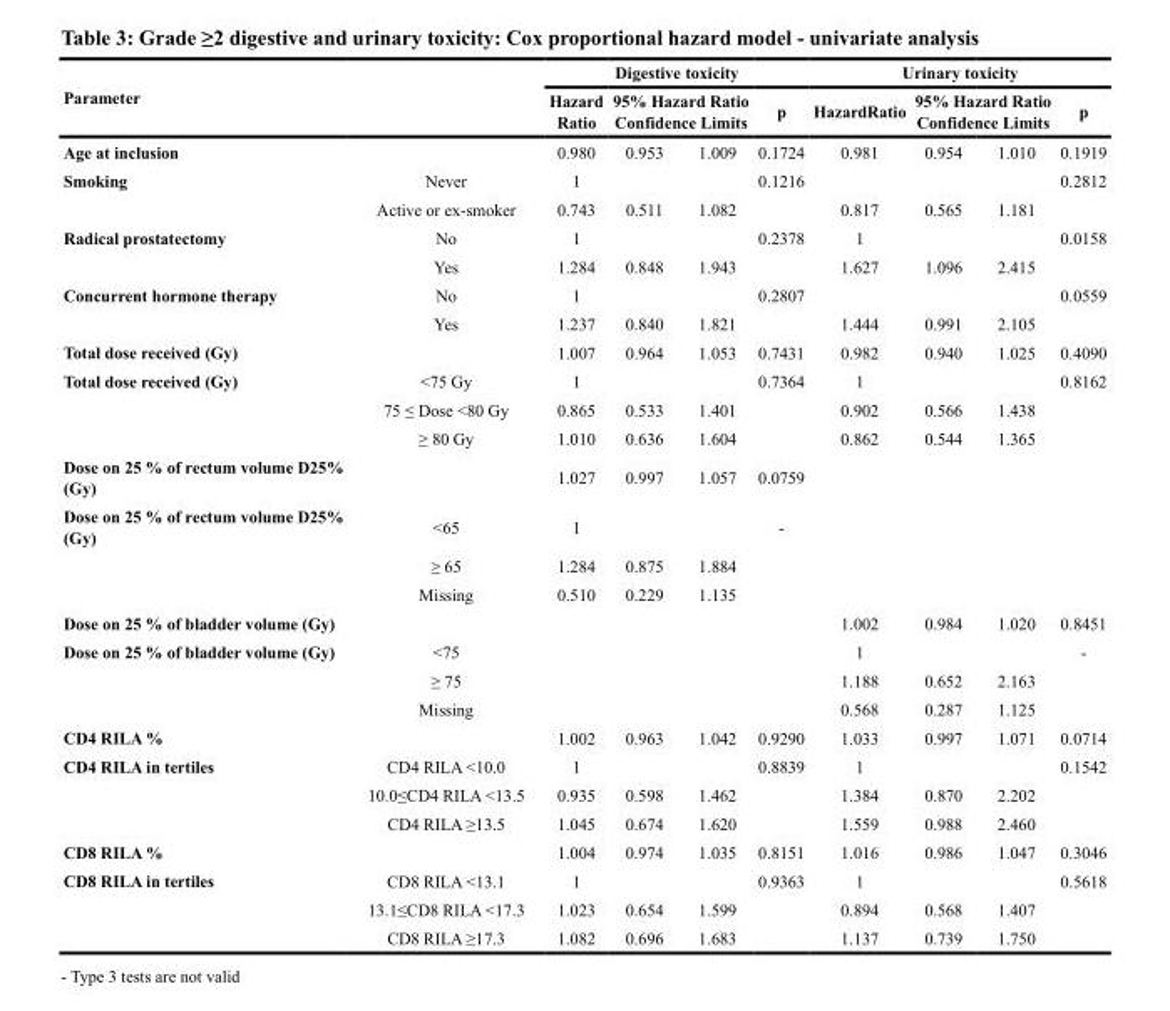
<table><thead><tr><td rowspan="3">Parameter Age at inclusion</td><td rowspan="3"></td><td colspan="4">Digestive toxicity</td><td colspan="4">Urinary toxicity</td></tr><tr><td rowspan="2">Hazard Ratio 0.980</td><td colspan="2">95% Hazard Ratio Confidence Limits</td><td rowspan="2">p 0.1724</td><td rowspan="2">HazardRatio 0.981</td><td colspan="2">95% Hazard Ratio Confidence Limits</td><td rowspan="2">p 0.1919</td></tr><tr><td>0.953</td><td>1.009</td><td>0.954</td><td>1.010</td></tr></thead><tbody><tr><td rowspan="2">Smoking</td><td>Never</td><td>1</td><td></td><td></td><td>0.1216</td><td></td><td></td><td></td><td>0.2812</td></tr><tr><td>Active or ex-smoker</td><td>0.743</td><td>0.511</td><td>1.082</td><td></td><td>0.817</td><td>0.565</td><td>1.181</td><td></td></tr><tr><td rowspan="2">Radical prostatectomy</td><td>No</td><td>1</td><td></td><td></td><td>0.2378</td><td>1</td><td></td><td></td><td>0.0158</td></tr><tr><td>Yes</td><td>1.284</td><td>0.848</td><td>1.943</td><td></td><td>1.627</td><td>1.096</td><td>2.415</td><td></td></tr><tr><td rowspan="2">Concurrent hormone therapy</td><td>No</td><td>1</td><td></td><td></td><td>0.2807</td><td></td><td></td><td></td><td>0.0559</td></tr><tr><td>Yes</td><td>1.237</td><td>0.840</td><td>1.821</td><td></td><td>1.444</td><td>0.991</td><td>2.105</td><td></td></tr><tr><td>Total dose received (Gy)</td><td></td><td>1.007</td><td>0.964</td><td>1.053</td><td>0.7431</td><td>0.982</td><td>0.940</td><td>1.025</td><td>0.4090</td></tr><tr><td rowspan="3">Total dose received (Gy)</td><td>&lt;75 Gy</td><td>1</td><td></td><td></td><td>0.7364</td><td>1</td><td></td><td></td><td>0.8162</td></tr><tr><td>75 ≤ Dose &lt;80 Gy</td><td>0.865</td><td>0.533</td><td>1.401</td><td></td><td>0.902</td><td>0.566</td><td>1.438</td><td></td></tr><tr><td>≥ 80 Gy</td><td>1.010</td><td>0.636</td><td>1.604</td><td></td><td>0.862</td><td>0.544</td><td>1.365</td><td></td></tr><tr><td>Dose on 25 % of rectum volume D25% (Gy)</td><td></td><td>1.027</td><td>0.997</td><td>1.057</td><td>0.0759</td><td></td><td></td><td></td><td></td></tr><tr><td rowspan="3">Dose on 25 % of rectum volume D25% (Gy)</td><td>&lt;65</td><td>1</td><td></td><td></td><td>-</td><td></td><td></td><td></td><td></td></tr><tr><td>≥ 65</td><td>1.284</td><td>0.875</td><td>1.884</td><td></td><td></td><td></td><td></td><td></td></tr><tr><td>Missing</td><td>0.510</td><td>0.229</td><td>1.135</td><td></td><td></td><td></td><td></td><td></td></tr><tr><td>Dose on 25 % of bladder volume (Gy)</td><td></td><td></td><td></td><td></td><td></td><td>1.002</td><td>0.984</td><td>1.020</td><td>0.8451</td></tr><tr><td rowspan="3">Dose on 25 % of bladder volume (Gy)</td><td>&lt;75</td><td></td><td></td><td></td><td></td><td>1</td><td></td><td></td><td>-</td></tr><tr><td>≥ 75</td><td></td><td></td><td></td><td></td><td>1.188</td><td>0.652</td><td>2.163</td><td></td></tr><tr><td>Missing</td><td></td><td></td><td></td><td></td><td>0.568</td><td>0.287</td><td>1.125</td><td></td></tr><tr><td>CD4 RILA %</td><td></td><td>1.002</td><td>0.963</td><td>1.042</td><td>0.9290</td><td>1.033</td><td>0.997</td><td>1.071</td><td>0.0714</td></tr><tr><td rowspan="3">CD4 RILA in tertiles</td><td>CD4 RILA &lt;10.0</td><td>1</td><td></td><td></td><td>0.8839</td><td>1</td><td></td><td></td><td>0.1542</td></tr><tr><td>10.0≤CD4 RILA &lt;13.5</td><td>0.935</td><td>0.598</td><td>1.462</td><td></td><td>1.384</td><td>0.870</td><td>2.202</td><td></td></tr><tr><td>CD4 RILA ≥13.5</td><td>1.045</td><td>0.674</td><td>1.620</td><td></td><td>1.559</td><td>0.988</td><td>2.460</td><td></td></tr><tr><td>CD8 RILA %</td><td></td><td>1.004</td><td>0.974</td><td>1.035</td><td>0.8151</td><td>1.016</td><td>0.986</td><td>1.047</td><td>0.3046</td></tr><tr><td rowspan="3">CD8 RILA in tertiles</td><td>CD8 RILA &lt;13.1</td><td>1</td><td></td><td></td><td>0.9363</td><td>1</td><td></td><td></td><td>0.5618</td></tr><tr><td>13.1≤CD8 RILA &lt;17.3</td><td>1.023</td><td>0.654</td><td>1.599</td><td></td><td>0.894</td><td>0.568</td><td>1.407</td><td></td></tr><tr><td>CD8 RILA ≥17.3</td><td>1.082</td><td>0.696</td><td>1.683</td><td></td><td>1.137</td><td>0.739</td><td>1.750</td><td></td></tr></tbody></table>